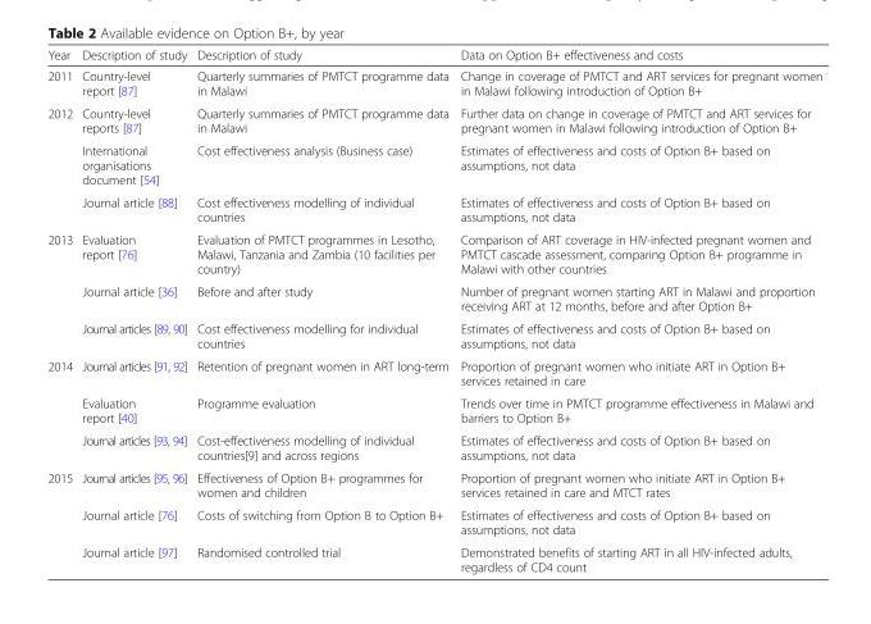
<table><thead><tr><td>Year</td><td>Description of study</td><td>Description of study</td><td>Data on Option B+ effectiveness and costs</td></tr></thead><tbody><tr><td>2011</td><td>Country-level report [87]</td><td>Quarterly summaries of PMTCT programme data in Malawi</td><td>Change in coverage of PMTCT and ART services for pregnant women in Malawi following introduction of Option B+</td></tr><tr><td rowspan="3">2012</td><td>Country-level reports [87]</td><td>Quarterly summaries of PMTCT programme data in Malawi</td><td>Further data on change in coverage of PMTCT and ART services for pregnant women in Malawi following introduction of Option B+</td></tr><tr><td>International organisations document [54]</td><td>Cost effectiveness analysis (Business case)</td><td>Estimates of effectiveness and costs of Option B+ based on assumptions, not data</td></tr><tr><td>Journal article [88]</td><td>Cost effectiveness modelling of individual countries</td><td>Estimates of effectiveness and costs of Option B+ based on assumptions, not data</td></tr><tr><td rowspan="3">2013</td><td>Evaluation report [76]</td><td>Evaluation of PMTCT programmes in Lesotho, Malawi, Tanzania and Zambia (10 facilities per country)</td><td>Comparison of ART coverage in HIV-infected pregnant women and PMTCT cascade assessment, comparing Option B+ programme in Malawi with other countries</td></tr><tr><td>Journal article [36]</td><td>Before and after study</td><td>Number of pregnant women starting ART in Malawi and proportion receiving ART at 12 months, before and after Option B+</td></tr><tr><td>Journal articles [89, 90]</td><td>Cost effectiveness modelling for individual countries</td><td>Estimates of effectiveness and costs of Option B+ based on assumptions, not data</td></tr><tr><td rowspan="3">2014</td><td>Journal articles [91, 92]</td><td>Retention of pregnant women in ART long-term</td><td>Proportion of pregnant women who initiate ART in Option B+ services retained in care</td></tr><tr><td>Evaluation report [40]</td><td>Programme evaluation</td><td>Trends over time in PMTCT programme effectiveness in Malawi and barriers to Option B+</td></tr><tr><td>Journal articles [93, 94]</td><td>Cost-effectiveness modelling of individual countries[9] and across regions</td><td>Estimates of effectiveness and costs of Option B+ based on assumptions, not data</td></tr><tr><td rowspan="3">2015</td><td>Journal articles [95, 96]</td><td>Effectiveness of Option B+ programmes for women and children</td><td>Proportion of pregnant women who initiate ART in Option B+ services retained in care and MTCT rates</td></tr><tr><td>Journal article [76]</td><td>Costs of switching from Option B to Option B+</td><td>Estimates of effectiveness and costs of Option B+ based on assumptions, not data</td></tr><tr><td>Journal article [97]</td><td>Randomised controlled trial</td><td>Demonstrated benefits of starting ART in all HIV-infected adults, regardless of CD4 count</td></tr></tbody></table>